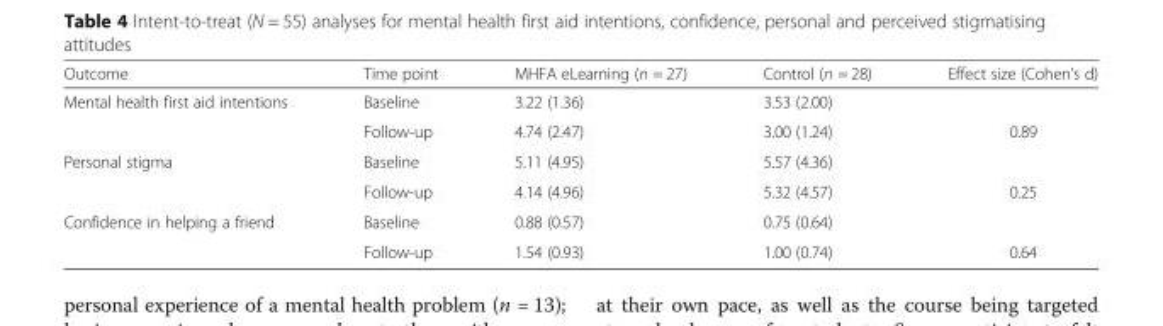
<table><thead><tr><td>Outcome</td><td>Time point</td><td>MHFA eLearning (n = 27)</td><td>Control (n = 28)</td><td>Effect size (Cohen’s d)</td></tr></thead><tbody><tr><td rowspan="2">Mental health first aid intentions</td><td>Baseline</td><td>3.22 (1.36)</td><td>3.53 (2.00)</td><td></td></tr><tr><td>Follow-up</td><td>4.74 (2.47)</td><td>3.00 (1.24)</td><td>0.89</td></tr><tr><td rowspan="2">Personal stigma</td><td>Baseline</td><td>5.11 (4.95)</td><td>5.57 (4.36)</td><td></td></tr><tr><td>Follow-up</td><td>4.14 (4.96)</td><td>5.32 (4.57)</td><td>0.25</td></tr><tr><td rowspan="2">Confidence in helping a friend</td><td>Baseline</td><td>0.88 (0.57)</td><td>0.75 (0.64)</td><td></td></tr><tr><td>Follow-up</td><td>1.54 (0.93)</td><td>1.00 (0.74)</td><td>0.64</td></tr></tbody></table>